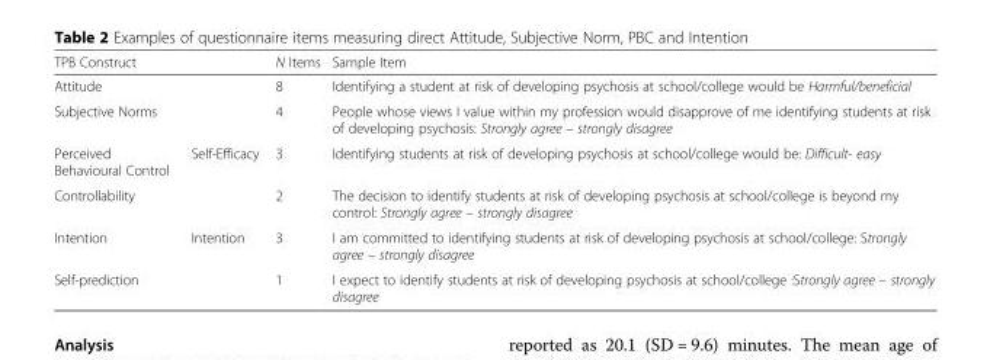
<table><thead><tr><td rowspan="3" colspan="2">TPB Construct Attitude Subjective Norms</td><td rowspan="4">N Items 8 4 3</td><td rowspan="4">Sample Item Identifying a student at risk of developing psychosis at school/college would be Harmful/beneficial People whose views I value within my profession would disapprove of me identifying students at risk of developing psychosis: Strongly agree – strongly disagree Identifying students at risk of developing psychosis at school/college would be: Difficult- easy</td></tr><tr></tr><tr></tr><tr><td>Perceived Behavioural Control</td><td>Self-Efficacy</td></tr></thead><tbody><tr><td colspan="2">Controllability</td><td>2</td><td>The decision to identify students at risk of developing psychosis at school/college is beyond my control: Strongly agree – strongly disagree</td></tr><tr><td>Intention</td><td>Intention</td><td>3</td><td>I am committed to identifying students at risk of developing psychosis at school/college: Strongly agree – strongly disagree</td></tr><tr><td colspan="2">Self-prediction</td><td>1</td><td>I expect to identify students at risk of developing psychosis at school/college :Strongly agree – strongly disagree</td></tr></tbody></table>